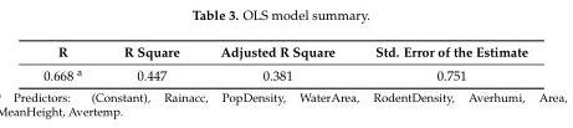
<table><thead><tr><td>R</td><td>R Square</td><td>Adjusted R Square</td><td>Std. Error of the Estimate</td></tr></thead><tbody><tr><td>0.668 <sup>a</sup></td><td>0.447</td><td>0.381</td><td>0.751</td></tr></tbody></table>